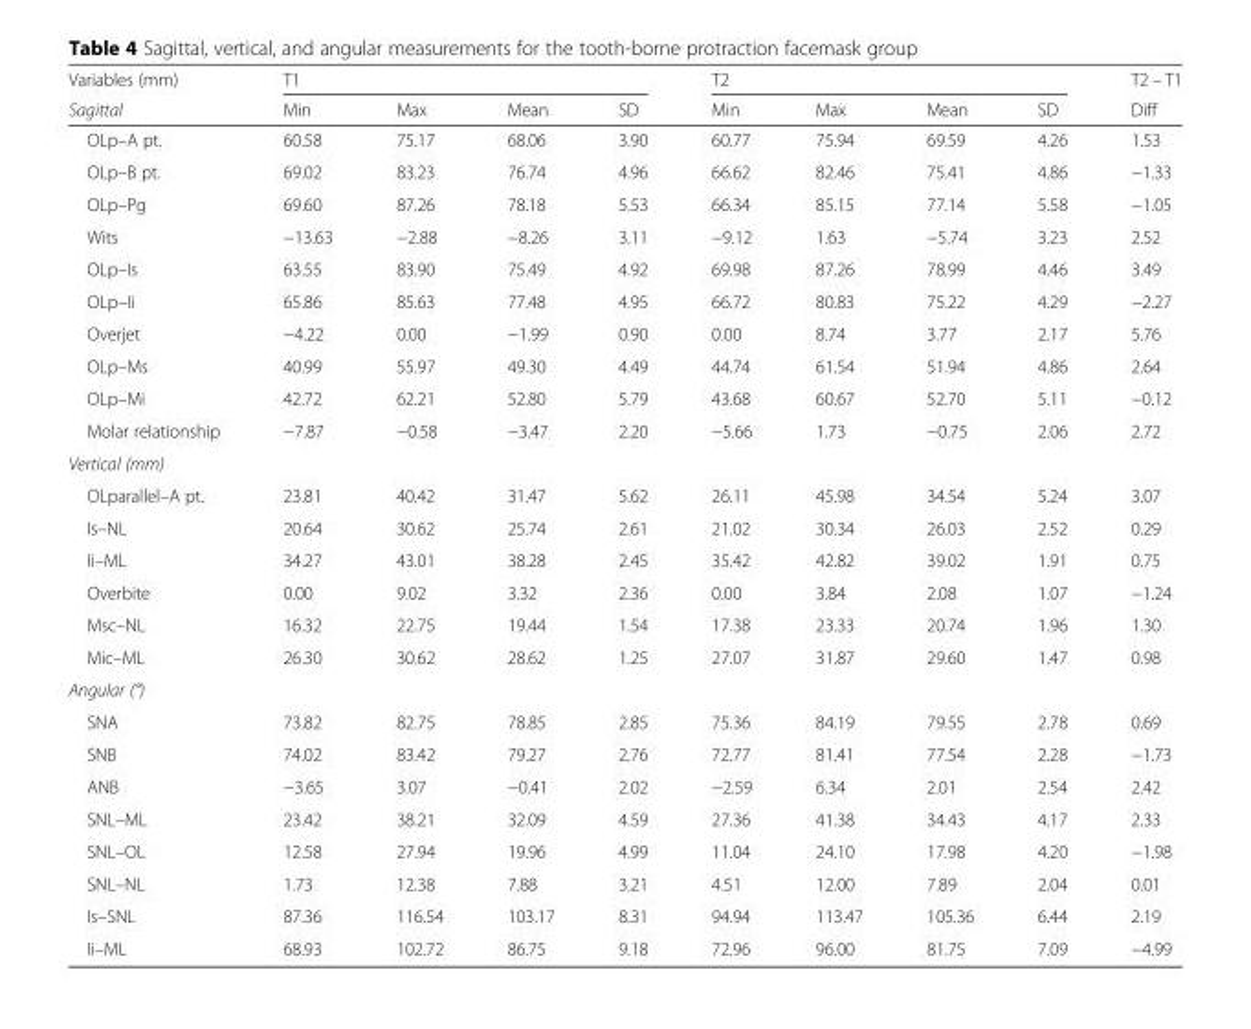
<table><thead><tr><td rowspan="2">Variables (mm) Sagittal</td><td colspan="4">T1</td><td colspan="4">T2</td><td rowspan="2">T2 – T1 Diff</td></tr><tr><td>Min</td><td>Max</td><td>Mean</td><td>SD</td><td>Min</td><td>Max</td><td>Mean</td><td>SD</td></tr></thead><tbody><tr><td>OLp–A pt.</td><td>60.58</td><td>75.17</td><td>68.06</td><td>3.90</td><td>60.77</td><td>75.94</td><td>69.59</td><td>4.26</td><td>1.53</td></tr><tr><td>OLp–B pt.</td><td>69.02</td><td>83.23</td><td>76.74</td><td>4.96</td><td>66.62</td><td>82.46</td><td>75.41</td><td>4.86</td><td>−1.33</td></tr><tr><td>OLp–Pg</td><td>69.60</td><td>87.26</td><td>78.18</td><td>5.53</td><td>66.34</td><td>85.15</td><td>77.14</td><td>5.58</td><td>−1.05</td></tr><tr><td>Wits</td><td>−13.63</td><td>−2.88</td><td>−8.26</td><td>3.11</td><td>−9.12</td><td>1.63</td><td>−5.74</td><td>3.23</td><td>2.52</td></tr><tr><td>OLp–Is</td><td>63.55</td><td>83.90</td><td>75.49</td><td>4.92</td><td>69.98</td><td>87.26</td><td>78.99</td><td>4.46</td><td>3.49</td></tr><tr><td>OLp–Ii</td><td>65.86</td><td>85.63</td><td>77.48</td><td>4.95</td><td>66.72</td><td>80.83</td><td>75.22</td><td>4.29</td><td>−2.27</td></tr><tr><td>Overjet</td><td>−4.22</td><td>0.00</td><td>−1.99</td><td>0.90</td><td>0.00</td><td>8.74</td><td>3.77</td><td>2.17</td><td>5.76</td></tr><tr><td>OLp–Ms</td><td>40.99</td><td>55.97</td><td>49.30</td><td>4.49</td><td>44.74</td><td>61.54</td><td>51.94</td><td>4.86</td><td>2.64</td></tr><tr><td>OLp–Mi</td><td>42.72</td><td>62.21</td><td>52.80</td><td>5.79</td><td>43.68</td><td>60.67</td><td>52.70</td><td>5.11</td><td>−0.12</td></tr><tr><td>Molar relationship</td><td>−7.87</td><td>−0.58</td><td>−3.47</td><td>2.20</td><td>−5.66</td><td>1.73</td><td>−0.75</td><td>2.06</td><td>2.72</td></tr><tr><td colspan="10">Vertical (mm)</td></tr><tr><td>OLparallel–A pt.</td><td>23.81</td><td>40.42</td><td>31.47</td><td>5.62</td><td>26.11</td><td>45.98</td><td>34.54</td><td>5.24</td><td>3.07</td></tr><tr><td>Is–NL</td><td>20.64</td><td>30.62</td><td>25.74</td><td>2.61</td><td>21.02</td><td>30.34</td><td>26.03</td><td>2.52</td><td>0.29</td></tr><tr><td>Ii–ML</td><td>34.27</td><td>43.01</td><td>38.28</td><td>2.45</td><td>35.42</td><td>42.82</td><td>39.02</td><td>1.91</td><td>0.75</td></tr><tr><td>Overbite</td><td>0.00</td><td>9.02</td><td>3.32</td><td>2.36</td><td>0.00</td><td>3.84</td><td>2.08</td><td>1.07</td><td>−1.24</td></tr><tr><td>Msc–NL</td><td>16.32</td><td>22.75</td><td>19.44</td><td>1.54</td><td>17.38</td><td>23.33</td><td>20.74</td><td>1.96</td><td>1.30</td></tr><tr><td>Mic–ML</td><td>26.30</td><td>30.62</td><td>28.62</td><td>1.25</td><td>27.07</td><td>31.87</td><td>29.60</td><td>1.47</td><td>0.98</td></tr><tr><td colspan="10">Angular (°)</td></tr><tr><td>SNA</td><td>73.82</td><td>82.75</td><td>78.85</td><td>2.85</td><td>75.36</td><td>84.19</td><td>79.55</td><td>2.78</td><td>0.69</td></tr><tr><td>SNB</td><td>74.02</td><td>83.42</td><td>79.27</td><td>2.76</td><td>72.77</td><td>81.41</td><td>77.54</td><td>2.28</td><td>−1.73</td></tr><tr><td>ANB</td><td>−3.65</td><td>3.07</td><td>−0.41</td><td>2.02</td><td>−2.59</td><td>6.34</td><td>2.01</td><td>2.54</td><td>2.42</td></tr><tr><td>SNL–ML</td><td>23.42</td><td>38.21</td><td>32.09</td><td>4.59</td><td>27.36</td><td>41.38</td><td>34.43</td><td>4.17</td><td>2.33</td></tr><tr><td>SNL–OL</td><td>12.58</td><td>27.94</td><td>19.96</td><td>4.99</td><td>11.04</td><td>24.10</td><td>17.98</td><td>4.20</td><td>−1.98</td></tr><tr><td>SNL–NL</td><td>1.73</td><td>12.38</td><td>7.88</td><td>3.21</td><td>4.51</td><td>12.00</td><td>7.89</td><td>2.04</td><td>0.01</td></tr><tr><td>Is–SNL</td><td>87.36</td><td>116.54</td><td>103.17</td><td>8.31</td><td>94.94</td><td>113.47</td><td>105.36</td><td>6.44</td><td>2.19</td></tr><tr><td>Ii–ML</td><td>68.93</td><td>102.72</td><td>86.75</td><td>9.18</td><td>72.96</td><td>96.00</td><td>81.75</td><td>7.09</td><td>−4.99</td></tr></tbody></table>